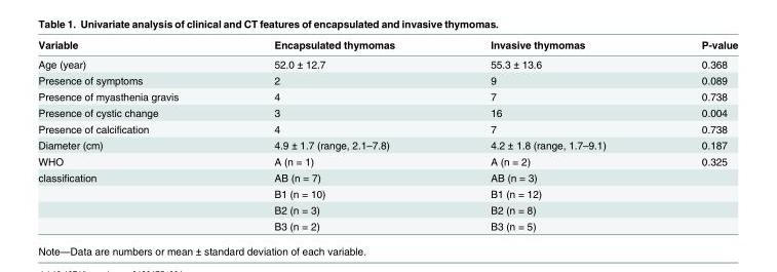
<table><thead><tr><td>Variable</td><td>Encapsulated thymomas</td><td>Invasive thymomas</td><td>P-value</td></tr></thead><tbody><tr><td>Age (year)</td><td>52.0 ± 12.7</td><td>55.3 ± 13.6</td><td>0.368</td></tr><tr><td>Presence of symptoms</td><td>2</td><td>9</td><td>0.089</td></tr><tr><td>Presence of myasthenia gravis</td><td>4</td><td>7</td><td>0.738</td></tr><tr><td>Presence of cystic change</td><td>3</td><td>16</td><td>0.004</td></tr><tr><td>Presence of calcification</td><td>4</td><td>7</td><td>0.738</td></tr><tr><td>Diameter (cm)</td><td>4.9 ± 1.7 (range, 2.1–7.8)</td><td>4.2 ± 1.8 (range, 1.7–9.1)</td><td>0.187</td></tr><tr><td>WHO</td><td>A (n = 1)</td><td>A (n = 2)</td><td>0.325</td></tr><tr><td rowspan="4">classification</td><td>AB (n = 7)</td><td>AB (n = 3)</td><td></td></tr><tr><td>B1 (n = 10)</td><td>B1 (n = 12)</td><td></td></tr><tr><td>B2 (n = 3)</td><td>B2 (n = 8)</td><td></td></tr><tr><td>B3 (n = 2)</td><td>B3 (n = 5)</td><td></td></tr></tbody></table>